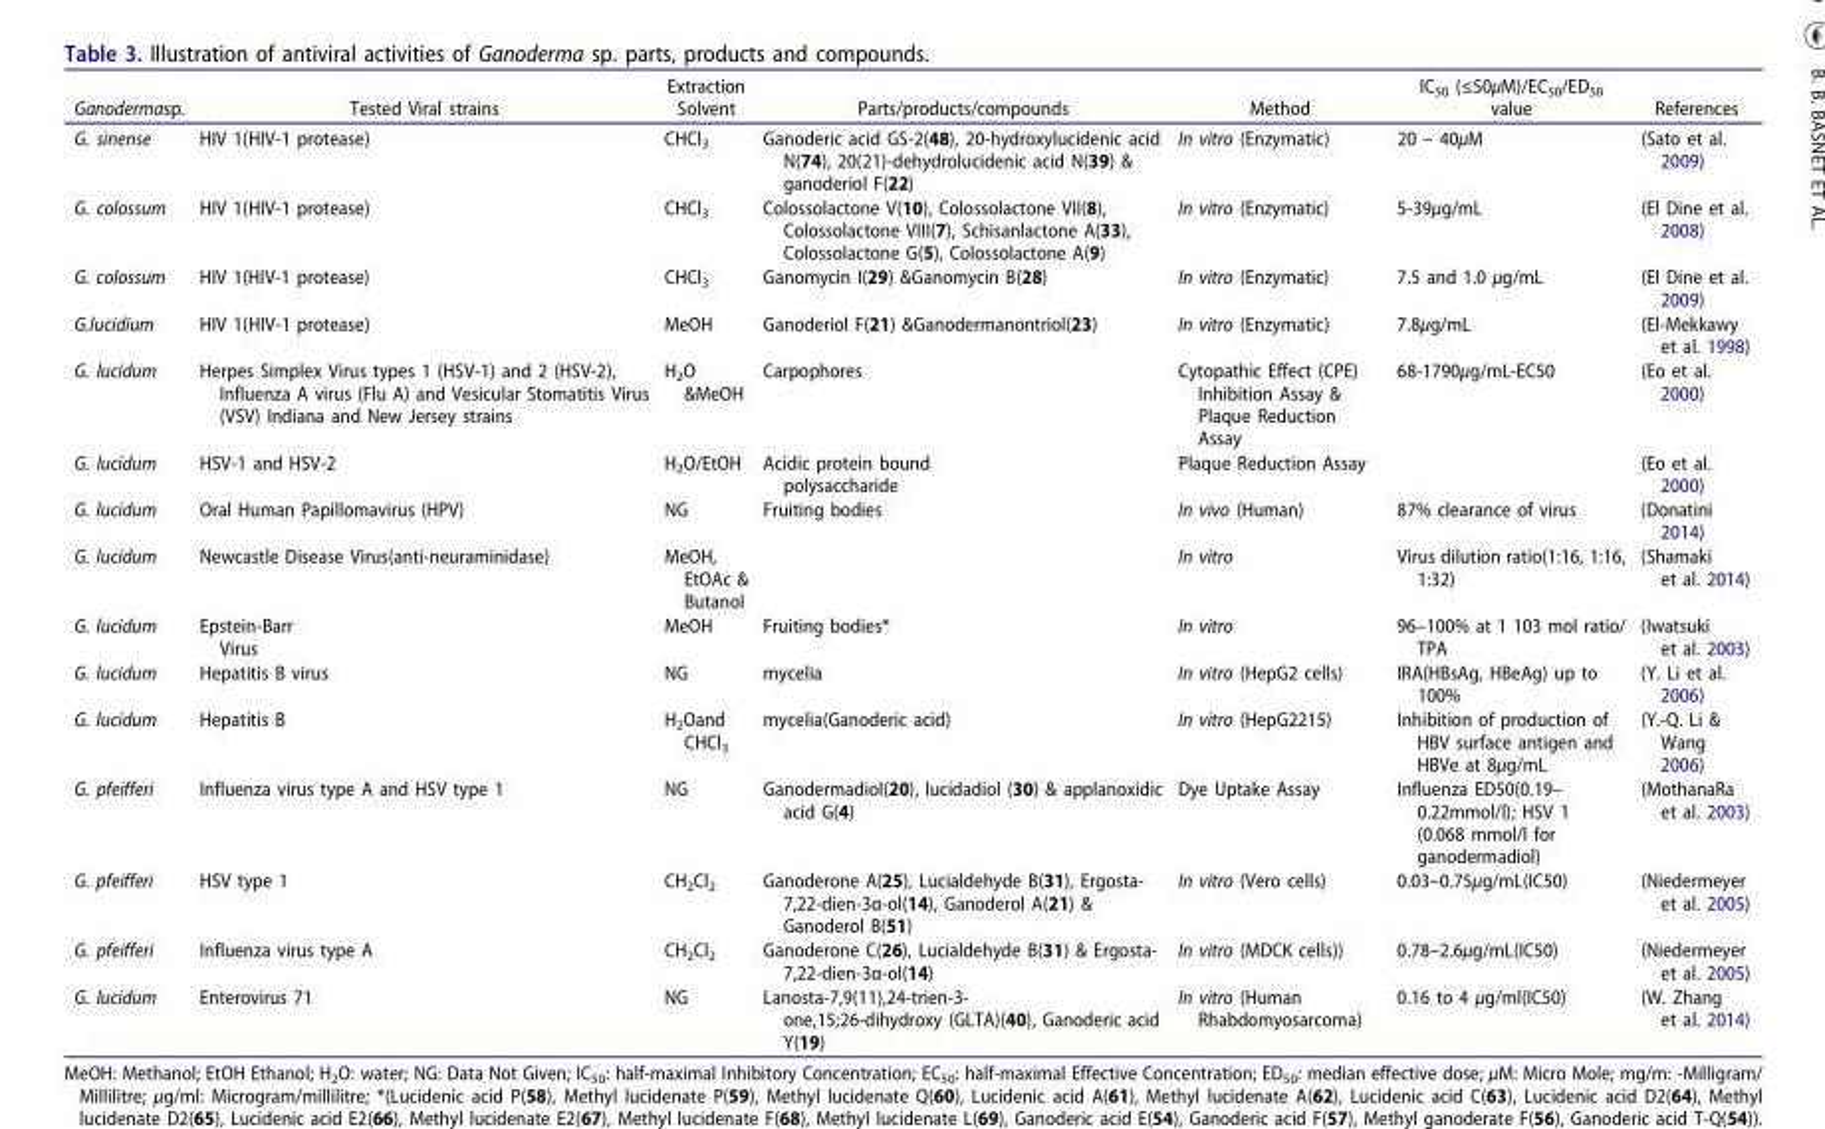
<table><thead><tr><td>Ganodermasp.</td><td>Tested Viral strains</td><td>Extraction Solvent</td><td>Parts/products/compounds</td><td>Method</td><td>IC<sub>50</sub> (≤50µM)/EC<sub>50</sub>/ED<sub>50</sub> value</td><td>References</td></tr></thead><tbody><tr><td>G. sinense</td><td>HIV 1(HIV-1 protease)</td><td>CHCl<sub>3</sub></td><td>Ganoderic acid GS-2(48), 20-hydroxylucidenic acid N(74), 20(21)-dehydrolucidenic acid N(39) &amp; ganoderiol F(22)</td><td>In vitro (Enzymatic)</td><td>20 – 40µM</td><td>(Sato et al. 2009)</td></tr><tr><td>G. colossum</td><td>HIV 1(HIV-1 protease)</td><td>CHCl<sub>3</sub></td><td>Colossolactone V(10), Colossolactone VII(8), Colossolactone VIII(7), Schisanlactone A(33), Colossolactone G(5), Colossolactone A(9)</td><td>In vitro (Enzymatic)</td><td>5-39μg/mL</td><td>(El Dine et al. 2008)</td></tr><tr><td>G. colossum</td><td>HIV 1(HIV-1 protease)</td><td>CHCl<sub>3</sub></td><td>Ganomycin I(29) &amp;Ganomycin B(28)</td><td>In vitro (Enzymatic)</td><td>7.5 and 1.0 μg/mL</td><td>(El Dine et al. 2009)</td></tr><tr><td>G.lucidium</td><td>HIV 1(HIV-1 protease)</td><td>MeOH</td><td>Ganoderiol F(21) &amp;Ganodermanontriol(23)</td><td>In vitro (Enzymatic)</td><td>7.8μg/mL</td><td>(El-Mekkawy et al. 1998)</td></tr><tr><td>G. lucidum</td><td>Herpes Simplex Virus types 1 (HSV-1) and 2 (HSV-2), Influenza A virus (Flu A) and Vesicular Stomatitis Virus (VSV) Indiana and New Jersey strains</td><td>H<sub>2</sub>O &amp;MeOH</td><td>Carpophores</td><td>Cytopathic Effect (CPE) Inhibition Assay &amp; Plaque Reduction Assay</td><td>68-1790μg/mL-EC50</td><td>(Eo et al. 2000)</td></tr><tr><td>G. lucidum</td><td>HSV-1 and HSV-2</td><td>H<sub>2</sub>O/EtOH</td><td>Acidic protein bound polysaccharide</td><td>Plaque Reduction Assay</td><td></td><td>(Eo et al. 2000)</td></tr><tr><td>G. lucidum</td><td>Oral Human Papillomavirus (HPV)</td><td>NG</td><td>Fruiting bodies</td><td>In vivo (Human)</td><td>87% clearance of virus</td><td>(Donatini 2014)</td></tr><tr><td>G. lucidum</td><td>Newcastle Disease Virus(anti-neuraminidase)</td><td>MeOH, EtOAc &amp; Butanol</td><td></td><td>In vitro</td><td>Virus dilution ratio(1:16, 1:16, 1:32)</td><td>(Shamaki et al. 2014)</td></tr><tr><td>G. lucidum</td><td>Epstein-Barr Virus</td><td>MeOH</td><td>Fruiting bodies*</td><td>In vitro</td><td>96–100% at 1 103 mol ratio/ TPA</td><td>(Iwatsuki et al. 2003)</td></tr><tr><td>G. lucidum</td><td>Hepatitis B virus</td><td>NG</td><td>mycelia</td><td>In vitro (HepG2 cells)</td><td>IRA(HBsAg, HBeAg) up to 100%</td><td>(Y. Li et al. 2006)</td></tr><tr><td>G. lucidum</td><td>Hepatitis B</td><td>H<sub>2</sub>Oand CHCl<sub>3</sub></td><td>mycelia(Ganoderic acid)</td><td>In vitro (HepG2215)</td><td>Inhibition of production of HBV surface antigen and HBVe at 8μg/mL</td><td>(Y.-Q. Li &amp; Wang 2006)</td></tr><tr><td>G. pfeifferi</td><td>Influenza virus type A and HSV type 1</td><td>NG</td><td>Ganodermadiol(20), lucidadiol (30) &amp; applanoxidic acid G(4)</td><td>Dye Uptake Assay</td><td>Influenza ED50(0.19– 0.22mmol/l); HSV 1 (0.068 mmol/l for ganodermadiol)</td><td>(MothanaRa et al. 2003)</td></tr><tr><td>G. pfeifferi</td><td>HSV type 1</td><td>CH<sub>2</sub>Cl<sub>2</sub></td><td>Ganoderone A(25), Lucialdehyde B(31), Ergosta- 7,22-dien-3α-ol(14), Ganoderol A(21) &amp; Ganoderol B(51)</td><td>In vitro (Vero cells)</td><td>0.03–0.75μg/mL(IC50)</td><td>(Niedermeyer et al. 2005)</td></tr><tr><td>G. pfeifferi</td><td>Influenza virus type A</td><td>CH<sub>2</sub>Cl<sub>2</sub></td><td>Ganoderone C(26), Lucialdehyde B(31) &amp; Ergosta- 7,22-dien-3α-ol(14)</td><td>In vitro (MDCK cells))</td><td>0.78–2.6μg/mL(IC50)</td><td>(Niedermeyer et al. 2005)</td></tr><tr><td>G. lucidum</td><td>Enterovirus 71</td><td>NG</td><td>Lanosta-7,9(11),24-trien-3- one,15;26-dihydroxy (GLTA)(40), Ganoderic acid Y(19)</td><td>In vitro (Human Rhabdomyosarcoma)</td><td>0.16 to 4 μg/ml(IC50)</td><td>(W. Zhang et al. 2014)</td></tr></tbody></table>